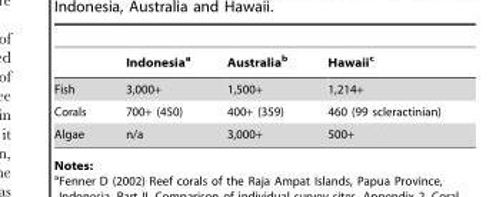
<table><thead><tr><td></td><td>Indonesia<sup>a</sup></td><td>Australia<sup>b</sup></td><td>Hawaii<sup>c</sup></td></tr></thead><tbody><tr><td>Fish</td><td>3,000+</td><td>1,500+</td><td>1,214+</td></tr><tr><td>Corals</td><td>700+ (450)</td><td>400+ (359)</td><td>460 (99 scleractinian)</td></tr><tr><td>Algae</td><td>n/a</td><td>3,000+</td><td>500+</td></tr></tbody></table>